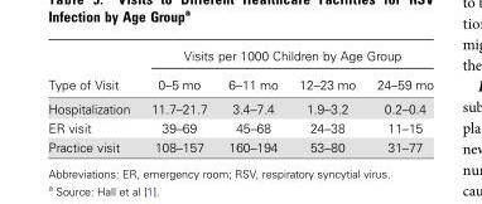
<table><thead><tr><td rowspan="2">Type of Visit</td><td colspan="4">Visits per 1000 Children by Age Group</td></tr><tr><td>0–5 mo</td><td>6–11 mo</td><td>12–23 mo</td><td>24–59 mo</td></tr></thead><tbody><tr><td>Hospitalization</td><td>11.7–21.7</td><td>3.4–7.4</td><td>1.9–3.2</td><td>0.2–0.4</td></tr><tr><td>ER visit</td><td>39–69</td><td>45–68</td><td>24–38</td><td>11–15</td></tr><tr><td>Practice visit</td><td>108–157</td><td>160–194</td><td>53–80</td><td>31–77</td></tr></tbody></table>